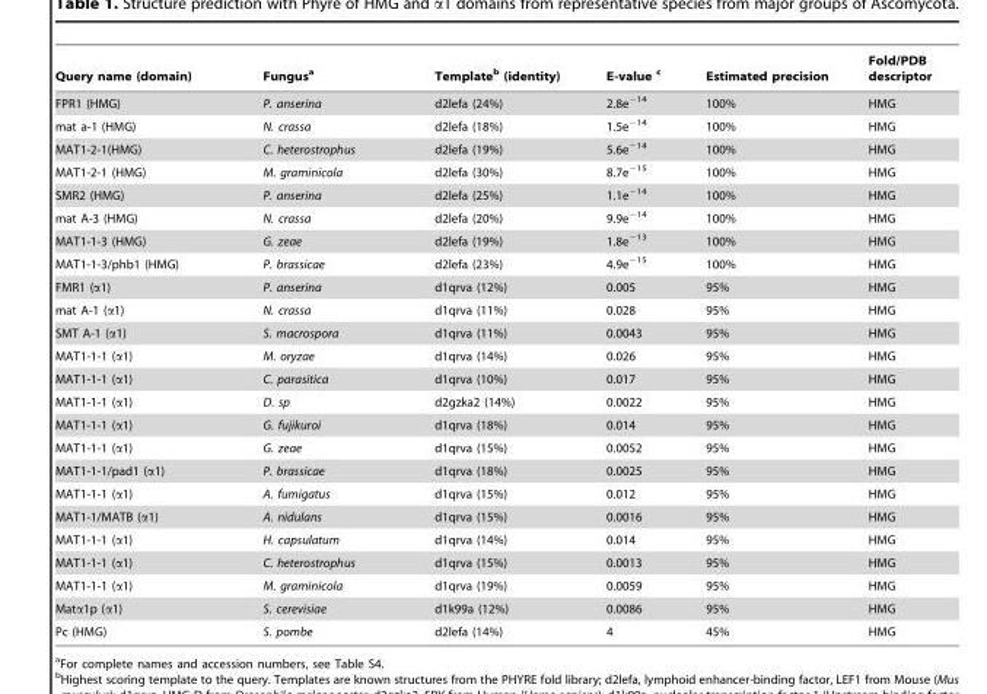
<table><thead><tr><td>Query name (domain)</td><td>Fungus<sup>a</sup></td><td>Template<sup>b</sup> (identity)</td><td>E-value <sup>c</sup></td><td>Estimated precision</td><td>Fold/PDB descriptor</td></tr></thead><tbody><tr><td>FPR1 (HMG)</td><td>P. anserina</td><td>d2lefa (24%)</td><td>2.8e<sup>−14</sup></td><td>100%</td><td>HMG</td></tr><tr><td>mat a-1 (HMG)</td><td>N. crassa</td><td>d2lefa (18%)</td><td>1.5e<sup>−14</sup></td><td>100%</td><td>HMG</td></tr><tr><td>MAT1-2-1(HMG)</td><td>C. heterostrophus</td><td>d2lefa (19%)</td><td>5.6e<sup>−14</sup></td><td>100%</td><td>HMG</td></tr><tr><td>MAT1-2-1 (HMG)</td><td>M. graminicola</td><td>d2lefa (30%)</td><td>8.7e<sup>−15</sup></td><td>100%</td><td>HMG</td></tr><tr><td>SMR2 (HMG)</td><td>P. anserina</td><td>d2lefa (25%)</td><td>1.1e<sup>−14</sup></td><td>100%</td><td>HMG</td></tr><tr><td>mat A-3 (HMG)</td><td>N. crassa</td><td>d2lefa (20%)</td><td>9.9e<sup>−14</sup></td><td>100%</td><td>HMG</td></tr><tr><td>MAT1-1-3 (HMG)</td><td>G. zeae</td><td>d2lefa (19%)</td><td>1.8e<sup>−13</sup></td><td>100%</td><td>HMG</td></tr><tr><td>MAT1-1-3/phb1 (HMG)</td><td>P. brassicae</td><td>d2lefa (23%)</td><td>4.9e<sup>−15</sup></td><td>100%</td><td>HMG</td></tr><tr><td>FMR1 (α1)</td><td>P. anserina</td><td>d1qrva (12%)</td><td>0.005</td><td>95%</td><td>HMG</td></tr><tr><td>mat A-1 (α1)</td><td>N. crassa</td><td>d1qrva (11%)</td><td>0.028</td><td>95%</td><td>HMG</td></tr><tr><td>SMT A-1 (α1)</td><td>S. macrospora</td><td>d1qrva (11%)</td><td>0.0043</td><td>95%</td><td>HMG</td></tr><tr><td>MAT1-1-1 (α1)</td><td>M. oryzae</td><td>d1qrva (14%)</td><td>0.026</td><td>95%</td><td>HMG</td></tr><tr><td>MAT1-1-1 (α1)</td><td>C. parasitica</td><td>d1qrva (10%)</td><td>0.017</td><td>95%</td><td>HMG</td></tr><tr><td>MAT1-1-1 (α1)</td><td>D. sp</td><td>d2gzka2 (14%)</td><td>0.0022</td><td>95%</td><td>HMG</td></tr><tr><td>MAT1-1-1 (α1)</td><td>G. fujikuroi</td><td>d1qrva (18%)</td><td>0.014</td><td>95%</td><td>HMG</td></tr><tr><td>MAT1-1-1 (α1)</td><td>G. zeae</td><td>d1qrva (15%)</td><td>0.0052</td><td>95%</td><td>HMG</td></tr><tr><td>MAT1-1-1/pad1 (α1)</td><td>P. brassicae</td><td>d1qrva (18%)</td><td>0.0025</td><td>95%</td><td>HMG</td></tr><tr><td>MAT1-1-1 (α1)</td><td>A. fumigatus</td><td>d1qrva (15%)</td><td>0.012</td><td>95%</td><td>HMG</td></tr><tr><td>MAT1-1/MATB (α1)</td><td>A. nidulans</td><td>d1qrva (15%)</td><td>0.0016</td><td>95%</td><td>HMG</td></tr><tr><td>MAT1-1-1 (α1)</td><td>H. capsulatum</td><td>d1qrva (14%)</td><td>0.014</td><td>95%</td><td>HMG</td></tr><tr><td>MAT1-1-1 (α1)</td><td>C. heterostrophus</td><td>d1qrva (15%)</td><td>0.0013</td><td>95%</td><td>HMG</td></tr><tr><td>MAT1-1-1 (α1)</td><td>M. graminicola</td><td>d1qrva (19%)</td><td>0.0059</td><td>95%</td><td>HMG</td></tr><tr><td>Matα1p (α1)</td><td>S. cerevisiae</td><td>d1k99a (12%)</td><td>0.0086</td><td>95%</td><td>HMG</td></tr><tr><td>Pc (HMG)</td><td>S. pombe</td><td>d2lefa (14%)</td><td>4</td><td>45%</td><td>HMG</td></tr></tbody></table>